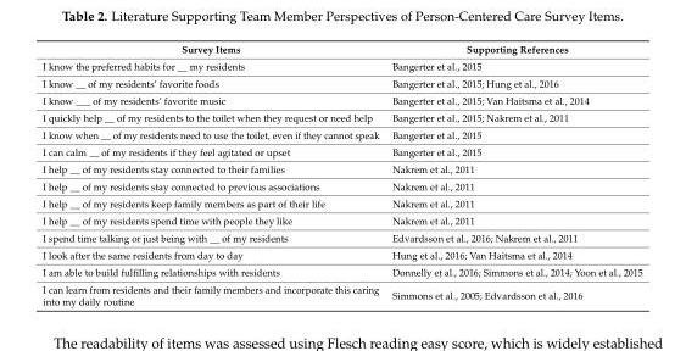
<table><thead><tr><td>Survey Items</td><td>Supporting References</td></tr></thead><tbody><tr><td>I know the preferred habits for __ my residents</td><td>Bangerter et al., 2015</td></tr><tr><td>I know __ of my residents’ favorite foods</td><td>Bangerter et al., 2015; Hung et al., 2016</td></tr><tr><td>I know ___ of my residents’ favorite music</td><td>Bangerter et al., 2015; Van Haitsma et al., 2014</td></tr><tr><td>I quickly help __ of my residents to the toilet when they request or need help</td><td>Bangerter et al., 2015; Nakrem et al., 2011</td></tr><tr><td>I know when __ of my residents need to use the toilet, even if they cannot speak</td><td>Bangerter et al., 2015</td></tr><tr><td>I can calm __ of my residents if they feel agitated or upset</td><td>Bangerter et al., 2015</td></tr><tr><td>I help __ of my residents stay connected to their families</td><td>Nakrem et al., 2011</td></tr><tr><td>I help __ of my residents stay connected to previous associations</td><td>Nakrem et al., 2011</td></tr><tr><td>I help __ of my residents keep family members as part of their life</td><td>Nakrem et al., 2011</td></tr><tr><td>I help __ of my residents spend time with people they like</td><td>Nakrem et al., 2011</td></tr><tr><td>I spend time talking or just being with __ of my residents</td><td>Edvardsson et al., 2016; Nakrem et al., 2011</td></tr><tr><td>I look after the same residents from day to day</td><td>Hung et al., 2016; Van Haitsma et al., 2014</td></tr><tr><td>I am able to build fulfilling relationships with residents</td><td>Donnelly et al., 2016; Simmons et al., 2014; Yoon et al., 2015</td></tr><tr><td>I can learn from residents and their family members and incorporate this caring into my daily routine</td><td>Simmons et al., 2005; Edvardsson et al., 2016</td></tr></tbody></table>